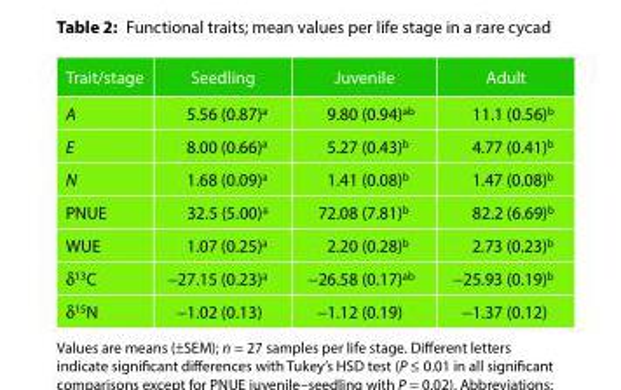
<table><thead><tr><td>Trait/stage</td><td>Seedling</td><td>Juvenile</td><td>Adult</td></tr></thead><tbody><tr><td>A</td><td>5.56 (0.87)<sup>a</sup></td><td>9.80 (0.94)<sup>ab</sup></td><td>11.1 (0.56)<sup>b</sup></td></tr><tr><td>E</td><td>8.00 (0.66)<sup>a</sup></td><td>5.27 (0.43)<sup>b</sup></td><td>4.77 (0.41)<sup>b</sup></td></tr><tr><td>N</td><td>1.68 (0.09)<sup>a</sup></td><td>1.41 (0.08)<sup>b</sup></td><td>1.47 (0.08)<sup>b</sup></td></tr><tr><td>PNUE</td><td>32.5 (5.00)<sup>a</sup></td><td>72.08 (7.81)<sup>b</sup></td><td>82.2 (6.69)<sup>b</sup></td></tr><tr><td>WUE</td><td>1.07 (0.25)<sup>a</sup></td><td>2.20 (0.28)<sup>b</sup></td><td>2.73 (0.23)<sup>b</sup></td></tr><tr><td>δ<sup>13</sup>C</td><td>−27.15 (0.23)<sup>a</sup></td><td>−26.58 (0.17)<sup>ab</sup></td><td>−25.93 (0.19)<sup>b</sup></td></tr><tr><td>δ<sup>15</sup>N</td><td>−1.02 (0.13)</td><td>−1.12 (0.19)</td><td>−1.37 (0.12)</td></tr></tbody></table>